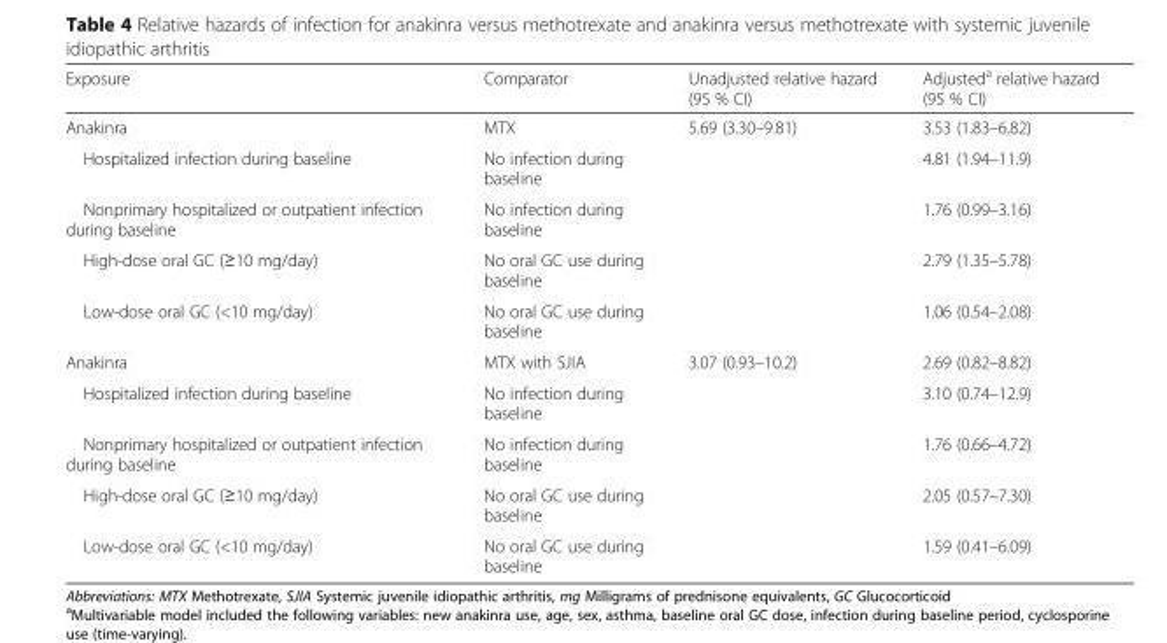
<table><thead><tr><td>Exposure</td><td>Comparator</td><td>Unadjusted relative hazard (95 % CI)</td><td>Adjusted<sup>a</sup> relative hazard (95 % CI)</td></tr></thead><tbody><tr><td>Anakinra</td><td>MTX</td><td>5.69 (3.30–9.81)</td><td>3.53 (1.83–6.82)</td></tr><tr><td>Hospitalized infection during baseline</td><td>No infection during baseline</td><td></td><td>4.81 (1.94–11.9)</td></tr><tr><td>Nonprimary hospitalized or outpatient infection during baseline</td><td>No infection during baseline</td><td></td><td>1.76 (0.99–3.16)</td></tr><tr><td>High-dose oral GC (≥10 mg/day)</td><td>No oral GC use during baseline</td><td></td><td>2.79 (1.35–5.78)</td></tr><tr><td>Low-dose oral GC (&lt;10 mg/day)</td><td>No oral GC use during baseline</td><td></td><td>1.06 (0.54–2.08)</td></tr><tr><td>Anakinra</td><td>MTX with SJIA</td><td>3.07 (0.93–10.2)</td><td>2.69 (0.82–8.82)</td></tr><tr><td>Hospitalized infection during baseline</td><td>No infection during baseline</td><td></td><td>3.10 (0.74–12.9)</td></tr><tr><td>Nonprimary hospitalized or outpatient infection during baseline</td><td>No infection during baseline</td><td></td><td>1.76 (0.66–4.72)</td></tr><tr><td>High-dose oral GC (≥10 mg/day)</td><td>No oral GC use during baseline</td><td></td><td>2.05 (0.57–7.30)</td></tr><tr><td>Low-dose oral GC (&lt;10 mg/day)</td><td>No oral GC use during baseline</td><td></td><td>1.59 (0.41–6.09)</td></tr></tbody></table>